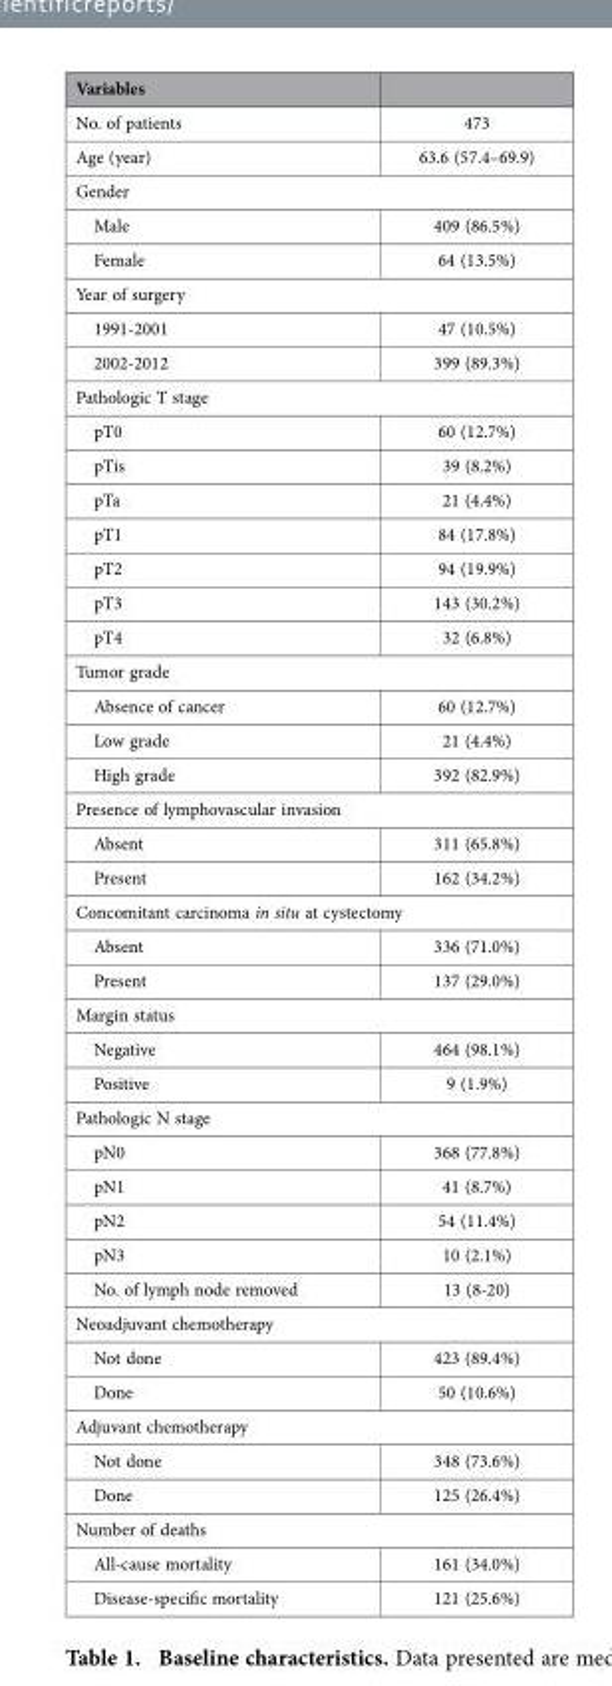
<table><thead><tr><td>Variables</td><td></td></tr></thead><tbody><tr><td>No. of patients</td><td>473</td></tr><tr><td>Age (year)</td><td>63.6 (57.4–69.9)</td></tr><tr><td colspan="2">Gender</td></tr><tr><td>Male</td><td>409 (86.5%)</td></tr><tr><td>Female</td><td>64 (13.5%)</td></tr><tr><td colspan="2">Year of surgery</td></tr><tr><td>1991-2001</td><td>47 (10.5%)</td></tr><tr><td>2002-2012</td><td>399 (89.3%)</td></tr><tr><td colspan="2">Pathologic T stage</td></tr><tr><td>pT0</td><td>60 (12.7%)</td></tr><tr><td>pTis</td><td>39 (8.2%)</td></tr><tr><td>pTa</td><td>21 (4.4%)</td></tr><tr><td>pT1</td><td>84 (17.8%)</td></tr><tr><td>pT2</td><td>94 (19.9%)</td></tr><tr><td>pT3</td><td>143 (30.2%)</td></tr><tr><td>pT4</td><td>32 (6.8%)</td></tr><tr><td colspan="2">Tumor grade</td></tr><tr><td>Absence of cancer</td><td>60 (12.7%)</td></tr><tr><td>Low grade</td><td>21 (4.4%)</td></tr><tr><td>High grade</td><td>392 (82.9%)</td></tr><tr><td colspan="2">Presence of lymphovascular invasion</td></tr><tr><td>Absent</td><td>311 (65.8%)</td></tr><tr><td>Present</td><td>162 (34.2%)</td></tr><tr><td colspan="2">Concomitant carcinoma in situ at cystectomy</td></tr><tr><td>Absent</td><td>336 (71.0%)</td></tr><tr><td>Present</td><td>137 (29.0%)</td></tr><tr><td colspan="2">Margin status</td></tr><tr><td>Negative</td><td>464 (98.1%)</td></tr><tr><td>Positive</td><td>9 (1.9%)</td></tr><tr><td colspan="2">Pathologic N stage</td></tr><tr><td>pN0</td><td>368 (77.8%)</td></tr><tr><td>pN1</td><td>41 (8.7%)</td></tr><tr><td>pN2</td><td>54 (11.4%)</td></tr><tr><td>pN3</td><td>10 (2.1%)</td></tr><tr><td>No. of lymph node removed</td><td>13 (8-20)</td></tr><tr><td colspan="2">Neoadjuvant chemotherapy</td></tr><tr><td>Not done</td><td>423 (89.4%)</td></tr><tr><td>Done</td><td>50 (10.6%)</td></tr><tr><td colspan="2">Adjuvant chemotherapy</td></tr><tr><td>Not done</td><td>348 (73.6%)</td></tr><tr><td>Done</td><td>125 (26.4%)</td></tr><tr><td colspan="2">Number of deaths</td></tr><tr><td>All-cause mortality</td><td>161 (34.0%)</td></tr><tr><td>Disease-specific mortality</td><td>121 (25.6%)</td></tr></tbody></table>